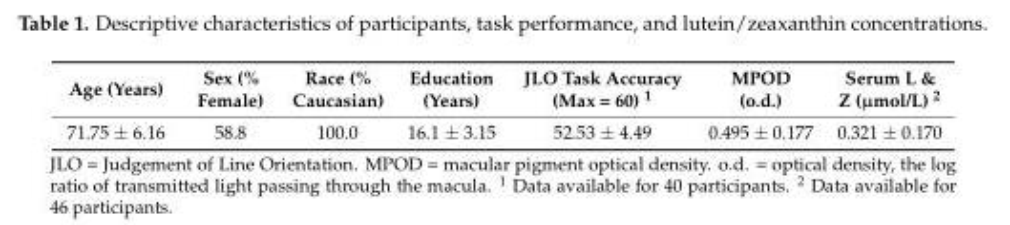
<table><thead><tr><td>Age (Years)</td><td>Sex (% Female)</td><td>Race (% Caucasian)</td><td>Education (Years)</td><td>JLO Task Accuracy (Max = 60) <sup>1</sup></td><td>MPOD (o.d.)</td><td>Serum L &amp; Z (µmol/L) <sup>2</sup></td></tr></thead><tbody><tr><td>71.75 ± 6.16</td><td>58.8</td><td>100.0</td><td>16.1 ± 3.15</td><td>52.53 ± 4.49</td><td>0.495 ± 0.177</td><td>0.321 ± 0.170</td></tr></tbody></table>